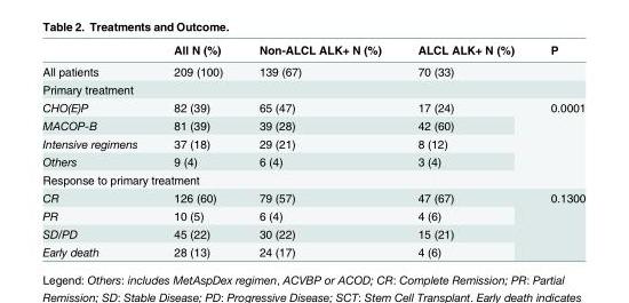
<table><thead><tr><td></td><td>All N (%)</td><td>Non-ALCL ALK+ N (%)</td><td>ALCL ALK+ N (%)</td><td>P</td></tr></thead><tbody><tr><td>All patients</td><td>209 (100)</td><td>139 (67)</td><td>70 (33)</td><td></td></tr><tr><td colspan="5">Primary treatment</td></tr><tr><td>CHO(E)P</td><td>82 (39)</td><td>65 (47)</td><td>17 (24)</td><td rowspan="4">0.0001</td></tr><tr><td>MACOP-B</td><td>81 (39)</td><td>39 (28)</td><td>42 (60)</td></tr><tr><td>Intensive regimens</td><td>37 (18)</td><td>29 (21)</td><td>8 (12)</td></tr><tr><td>Others</td><td>9 (4)</td><td>6 (4)</td><td>3 (4)</td></tr><tr><td colspan="5">Response to primary treatment</td></tr><tr><td>CR</td><td>126 (60)</td><td>79 (57)</td><td>47 (67)</td><td rowspan="4">0.1300</td></tr><tr><td>PR</td><td>10 (5)</td><td>6 (4)</td><td>4 (6)</td></tr><tr><td>SD/PD</td><td>45 (22)</td><td>30 (22)</td><td>15 (21)</td></tr><tr><td>Early death</td><td>28 (13)</td><td>24 (17)</td><td>4 (6)</td></tr></tbody></table>